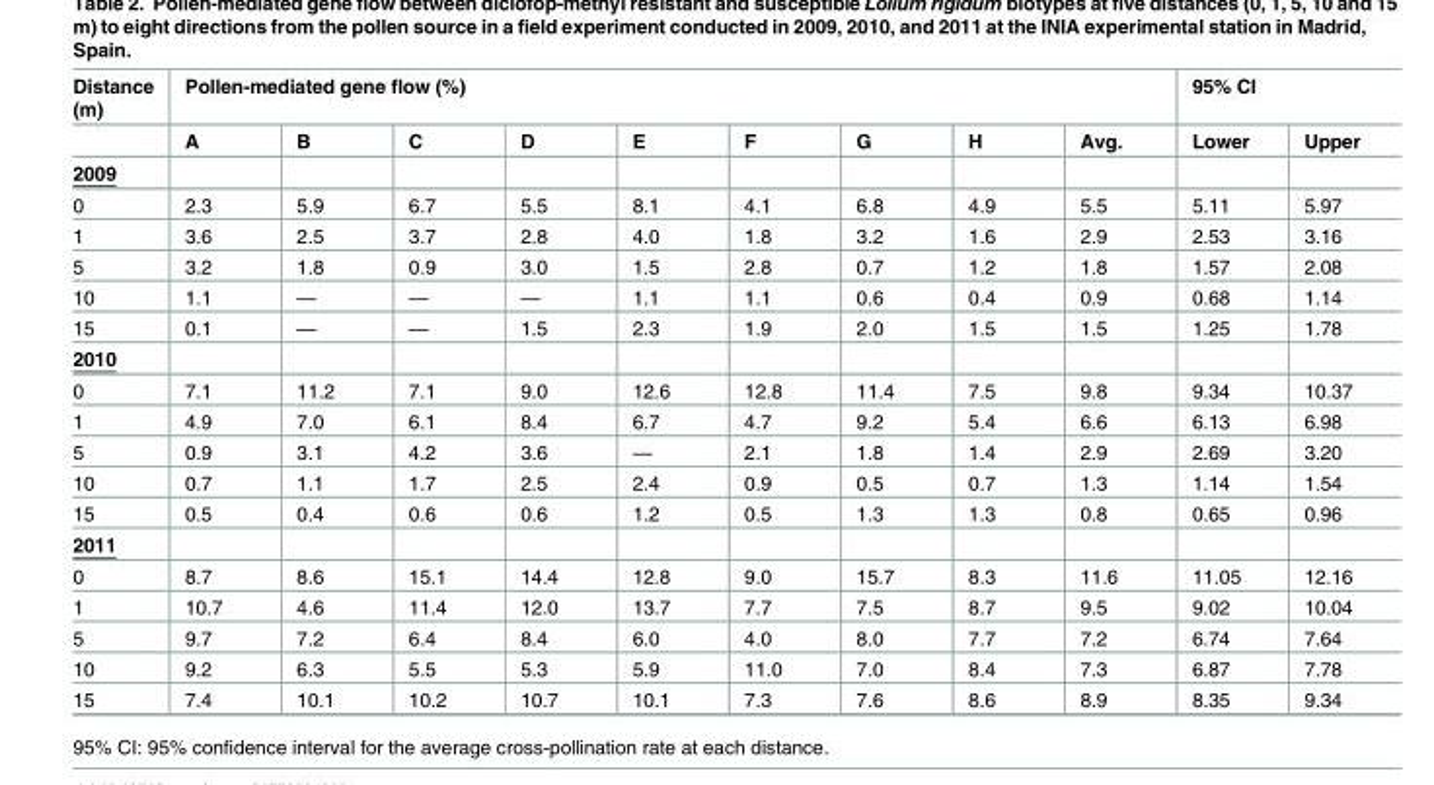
<table><thead><tr><td rowspan="2">Distance (m)</td><td colspan="9">Pollen-mediated gene flow (%)</td><td colspan="2">95% CI</td></tr><tr><td>A</td><td>B</td><td>C</td><td>D</td><td>E</td><td>F</td><td>G</td><td>H</td><td>Avg.</td><td>Lower</td><td>Upper</td></tr></thead><tbody><tr><td colspan="12">2009</td></tr><tr><td>0</td><td>2.3</td><td>5.9</td><td>6.7</td><td>5.5</td><td>8.1</td><td>4.1</td><td>6.8</td><td>4.9</td><td>5.5</td><td>5.11</td><td>5.97</td></tr><tr><td>1</td><td>3.6</td><td>2.5</td><td>3.7</td><td>2.8</td><td>4.0</td><td>1.8</td><td>3.2</td><td>1.6</td><td>2.9</td><td>2.53</td><td>3.16</td></tr><tr><td>5</td><td>3.2</td><td>1.8</td><td>0.9</td><td>3.0</td><td>1.5</td><td>2.8</td><td>0.7</td><td>1.2</td><td>1.8</td><td>1.57</td><td>2.08</td></tr><tr><td>10</td><td>1.1</td><td>—</td><td>—</td><td>—</td><td>1.1</td><td>1.1</td><td>0.6</td><td>0.4</td><td>0.9</td><td>0.68</td><td>1.14</td></tr><tr><td>15</td><td>0.1</td><td>—</td><td>—</td><td>1.5</td><td>2.3</td><td>1.9</td><td>2.0</td><td>1.5</td><td>1.5</td><td>1.25</td><td>1.78</td></tr><tr><td colspan="12">2010</td></tr><tr><td>0</td><td>7.1</td><td>11.2</td><td>7.1</td><td>9.0</td><td>12.6</td><td>12.8</td><td>11.4</td><td>7.5</td><td>9.8</td><td>9.34</td><td>10.37</td></tr><tr><td>1</td><td>4.9</td><td>7.0</td><td>6.1</td><td>8.4</td><td>6.7</td><td>4.7</td><td>9.2</td><td>5.4</td><td>6.6</td><td>6.13</td><td>6.98</td></tr><tr><td>5</td><td>0.9</td><td>3.1</td><td>4.2</td><td>3.6</td><td>—</td><td>2.1</td><td>1.8</td><td>1.4</td><td>2.9</td><td>2.69</td><td>3.20</td></tr><tr><td>10</td><td>0.7</td><td>1.1</td><td>1.7</td><td>2.5</td><td>2.4</td><td>0.9</td><td>0.5</td><td>0.7</td><td>1.3</td><td>1.14</td><td>1.54</td></tr><tr><td>15</td><td>0.5</td><td>0.4</td><td>0.6</td><td>0.6</td><td>1.2</td><td>0.5</td><td>1.3</td><td>1.3</td><td>0.8</td><td>0.65</td><td>0.96</td></tr><tr><td colspan="12">2011</td></tr><tr><td>0</td><td>8.7</td><td>8.6</td><td>15.1</td><td>14.4</td><td>12.8</td><td>9.0</td><td>15.7</td><td>8.3</td><td>11.6</td><td>11.05</td><td>12.16</td></tr><tr><td>1</td><td>10.7</td><td>4.6</td><td>11.4</td><td>12.0</td><td>13.7</td><td>7.7</td><td>7.5</td><td>8.7</td><td>9.5</td><td>9.02</td><td>10.04</td></tr><tr><td>5</td><td>9.7</td><td>7.2</td><td>6.4</td><td>8.4</td><td>6.0</td><td>4.0</td><td>8.0</td><td>7.7</td><td>7.2</td><td>6.74</td><td>7.64</td></tr><tr><td>10</td><td>9.2</td><td>6.3</td><td>5.5</td><td>5.3</td><td>5.9</td><td>11.0</td><td>7.0</td><td>8.4</td><td>7.3</td><td>6.87</td><td>7.78</td></tr><tr><td>15</td><td>7.4</td><td>10.1</td><td>10.2</td><td>10.7</td><td>10.1</td><td>7.3</td><td>7.6</td><td>8.6</td><td>8.9</td><td>8.35</td><td>9.34</td></tr></tbody></table>